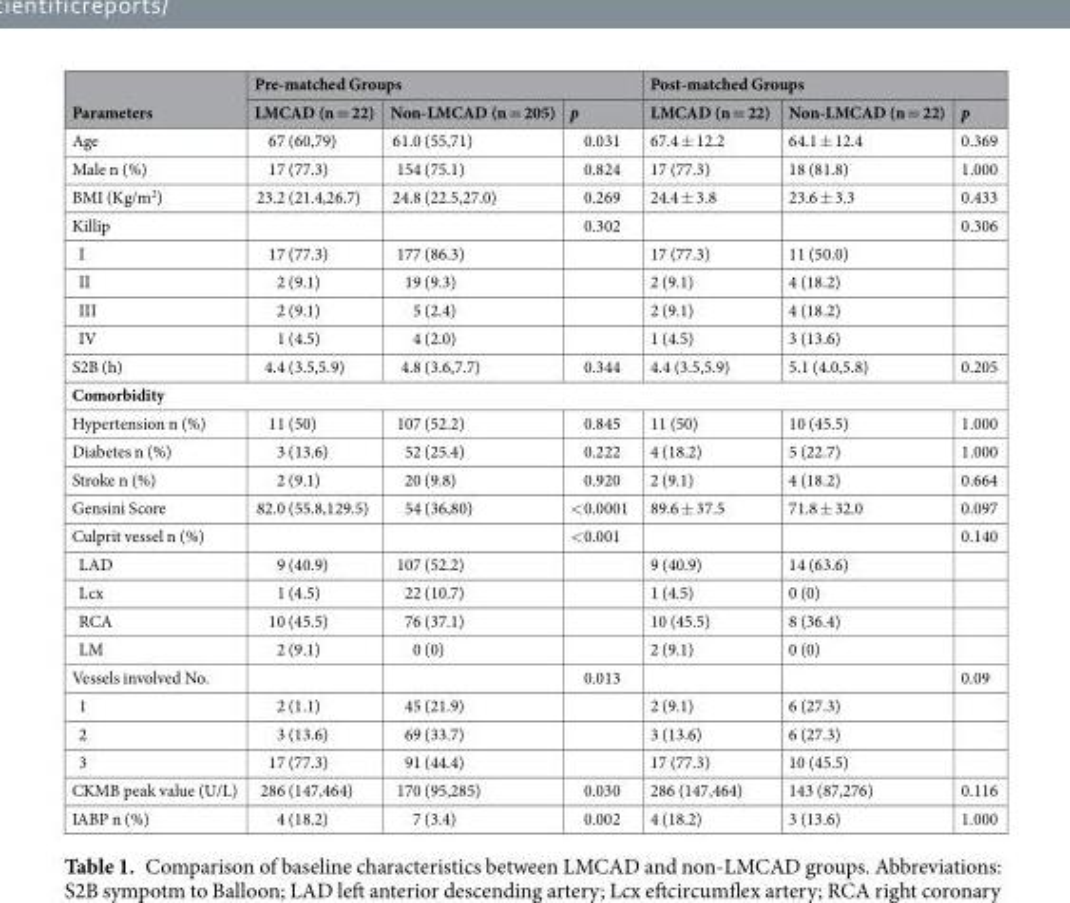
<table><thead><tr><td rowspan="2">Parameters</td><td colspan="3">Pre-matched Groups</td><td colspan="3">Post-matched Groups</td></tr><tr><td>LMCAD (n = 22)</td><td>Non-LMCAD (n = 205)</td><td>p</td><td>LMCAD (n = 22)</td><td>Non-LMCAD (n = 22)</td><td>p</td></tr></thead><tbody><tr><td>Age</td><td>67 (60,79)</td><td>61.0 (55,71)</td><td>0.031</td><td>67.4 ± 12.2</td><td>64.1 ± 12.4</td><td>0.369</td></tr><tr><td>Male n (%)</td><td>17 (77.3)</td><td>154 (75.1)</td><td>0.824</td><td>17 (77.3)</td><td>18 (81.8)</td><td>1.000</td></tr><tr><td>BMI (Kg/m<sup>2</sup>)</td><td>23.2 (21.4,26.7)</td><td>24.8 (22.5,27.0)</td><td>0.269</td><td>24.4 ± 3.8</td><td>23.6 ± 3.3</td><td>0.433</td></tr><tr><td>Killip</td><td></td><td></td><td>0.302</td><td></td><td></td><td>0.306</td></tr><tr><td>I</td><td>17 (77.3)</td><td>177 (86.3)</td><td></td><td>17 (77.3)</td><td>11 (50.0)</td><td></td></tr><tr><td>II</td><td>2 (9.1)</td><td>19 (9.3)</td><td></td><td>2 (9.1)</td><td>4 (18.2)</td><td></td></tr><tr><td>III</td><td>2 (9.1)</td><td>5 (2.4)</td><td></td><td>2 (9.1)</td><td>4 (18.2)</td><td></td></tr><tr><td>IV</td><td>1 (4.5)</td><td>4 (2.0)</td><td></td><td>1 (4.5)</td><td>3 (13.6)</td><td></td></tr><tr><td>S2B (h)</td><td>4.4 (3.5,5.9)</td><td>4.8 (3.6,7.7)</td><td>0.344</td><td>4.4 (3.5,5.9)</td><td>5.1 (4.0,5.8)</td><td>0.205</td></tr><tr><td colspan="7">Comorbidity</td></tr><tr><td>Hypertension n (%)</td><td>11 (50)</td><td>107 (52.2)</td><td>0.845</td><td>11 (50)</td><td>10 (45.5)</td><td>1.000</td></tr><tr><td>Diabetes n (%)</td><td>3 (13.6)</td><td>52 (25.4)</td><td>0.222</td><td>4 (18.2)</td><td>5 (22.7)</td><td>1.000</td></tr><tr><td>Stroke n (%)</td><td>2 (9.1)</td><td>20 (9.8)</td><td>0.920</td><td>2 (9.1)</td><td>4 (18.2)</td><td>0.664</td></tr><tr><td>Gensini Score</td><td>82.0 (55.8,129.5)</td><td>54 (36,80)</td><td>&lt;0.0001</td><td>89.6 ± 37.5</td><td>71.8 ± 32.0</td><td>0.097</td></tr><tr><td>Culprit vessel n (%)</td><td></td><td></td><td>&lt;0.001</td><td></td><td></td><td>0.140</td></tr><tr><td>LAD</td><td>9 (40.9)</td><td>107 (52.2)</td><td></td><td>9 (40.9)</td><td>14 (63.6)</td><td></td></tr><tr><td>Lcx</td><td>1 (4.5)</td><td>22 (10.7)</td><td></td><td>1 (4.5)</td><td>0 (0)</td><td></td></tr><tr><td>RCA</td><td>10 (45.5)</td><td>76 (37.1)</td><td></td><td>10 (45.5)</td><td>8 (36.4)</td><td></td></tr><tr><td>LM</td><td>2 (9.1)</td><td>0 (0)</td><td></td><td>2 (9.1)</td><td>0 (0)</td><td></td></tr><tr><td>Vessels involved No.</td><td></td><td></td><td>0.013</td><td></td><td></td><td>0.09</td></tr><tr><td>1</td><td>2 (1.1)</td><td>45 (21.9)</td><td></td><td>2 (9.1)</td><td>6 (27.3)</td><td></td></tr><tr><td>2</td><td>3 (13.6)</td><td>69 (33.7)</td><td></td><td>3 (13.6)</td><td>6 (27.3)</td><td></td></tr><tr><td>3</td><td>17 (77.3)</td><td>91 (44.4)</td><td></td><td>17 (77.3)</td><td>10 (45.5)</td><td></td></tr><tr><td>CKMB peak value (U/L)</td><td>286 (147,464)</td><td>170 (95,285)</td><td>0.030</td><td>286 (147,464)</td><td>143 (87,276)</td><td>0.116</td></tr><tr><td>IABP n (%)</td><td>4 (18.2)</td><td>7 (3.4)</td><td>0.002</td><td>4 (18.2)</td><td>3 (13.6)</td><td>1.000</td></tr></tbody></table>